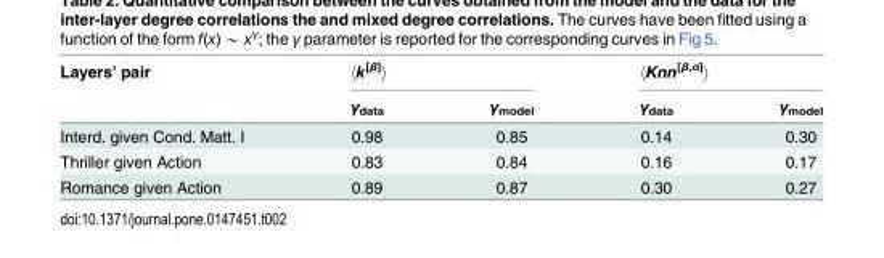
<table><thead><tr><td rowspan="2">Layers’ pair</td><td colspan="2">〈k<sup>[β]</sup>〉</td><td colspan="2">〈Knn<sup>[β,α]</sup>〉</td></tr><tr><td>γ<sub>data</sub></td><td>γ<sub>model</sub></td><td>γ<sub>data</sub></td><td>γ<sub>model</sub></td></tr></thead><tbody><tr><td>Interd. given Cond. Matt. I</td><td>0.98</td><td>0.85</td><td>0.14</td><td>0.30</td></tr><tr><td>Thriller given Action</td><td>0.83</td><td>0.84</td><td>0.16</td><td>0.17</td></tr><tr><td>Romance given Action</td><td>0.89</td><td>0.87</td><td>0.30</td><td>0.27</td></tr></tbody></table>